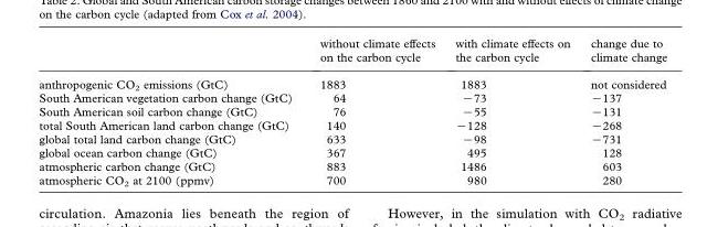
<table><thead><tr><td></td><td>without climate effects on the carbon cycle</td><td>with climate effects on the carbon cycle</td><td>change due to climate change</td></tr></thead><tbody><tr><td>anthropogenic CO2 emissions (GtC)</td><td>1883</td><td>1883</td><td>not considered</td></tr><tr><td>South American vegetation carbon change (GtC)</td><td>64</td><td>−73</td><td>−137</td></tr><tr><td>South American soil carbon change (GtC)</td><td>76</td><td>−55</td><td>−131</td></tr><tr><td>total South American land carbon change (GtC)</td><td>140</td><td>−128</td><td>−268</td></tr><tr><td>global total land carbon change (GtC)</td><td>633</td><td>−98</td><td>−731</td></tr><tr><td>global ocean carbon change (GtC)</td><td>367</td><td>495</td><td>128</td></tr><tr><td>atmospheric carbon change (GtC)</td><td>883</td><td>1486</td><td>603</td></tr><tr><td>atmospheric CO2 at 2100 (ppmv)</td><td>700</td><td>980</td><td>280</td></tr></tbody></table>